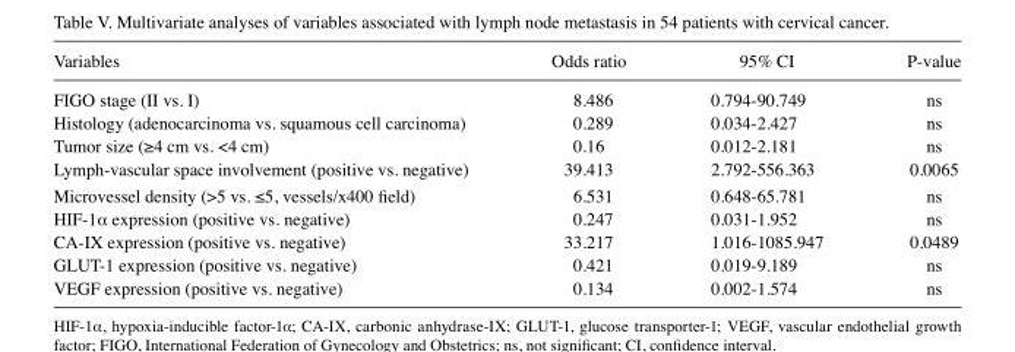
<table><thead><tr><td>Variables</td><td>Odds ratio</td><td>95% CI</td><td>P-value</td></tr></thead><tbody><tr><td>FIGO stage (II vs. I)</td><td>8.486</td><td>0.794-90.749</td><td>ns</td></tr><tr><td>Histology (adenocarcinoma vs. squamous cell carcinoma)</td><td>0.289</td><td>0.034-2.427</td><td>ns</td></tr><tr><td>Tumor size (≥4 cm vs. &lt;4 cm)</td><td>0.16</td><td>0.012‑2.181</td><td>ns</td></tr><tr><td>Lymph-vascular space involvement (positive vs. negative)</td><td>39.413</td><td>2.792-556.363</td><td>0.0065</td></tr><tr><td>Microvessel density (&gt;5 vs. ≤5, vessels/x400 field)</td><td>6.531</td><td>0.648-65.781</td><td>ns</td></tr><tr><td>HIF-1α expression (positive vs. negative)</td><td>0.247</td><td>0.031-1.952</td><td>ns</td></tr><tr><td>CA-IX expression (positive vs. negative)</td><td>33.217</td><td>1.016-1085.947</td><td>0.0489</td></tr><tr><td>GLUT-1 expression (positive vs. negative)</td><td>0.421</td><td>0.019-9.189</td><td>ns</td></tr><tr><td>VEGF expression (positive vs. negative)</td><td>0.134</td><td>0.002-1.574</td><td>ns</td></tr></tbody></table>